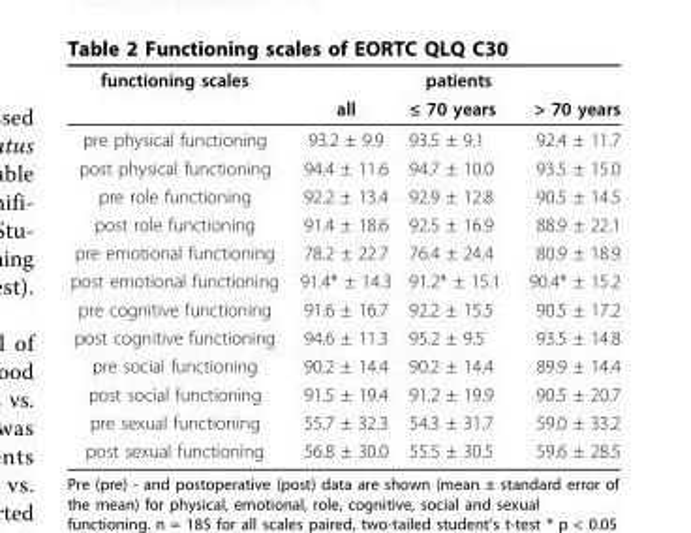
<table><thead><tr><td rowspan="2">functioning scales</td><td colspan="3">patients</td></tr><tr><td>all</td><td>≤ 70 years</td><td>&gt; 70 years</td></tr></thead><tbody><tr><td>pre physical functioning</td><td>93.2 ± 9.9</td><td>93.5 ± 9.1</td><td>92.4 ± 11.7</td></tr><tr><td>post physical functioning</td><td>94.4 ± 11.6</td><td>94.7 ± 10.0</td><td>93.5 ± 15.0</td></tr><tr><td>pre role functioning</td><td>92.2 ± 13.4</td><td>92.9 ± 12.8</td><td>90.5 ± 14.5</td></tr><tr><td>post role functioning</td><td>91.4 ± 18.6</td><td>92.5 ± 16.9</td><td>88.9 ± 22.1</td></tr><tr><td>pre emotional functioning</td><td>78.2 ± 22.7</td><td>76.4 ± 24.4</td><td>80.9 ± 18.9</td></tr><tr><td>post emotional functioning</td><td>91.4* ± 14.3</td><td>91.2* ± 15.1</td><td>90.4* ± 15.2</td></tr><tr><td>pre cognitive functioning</td><td>91.6 ± 16.7</td><td>92.2 ± 15.5</td><td>90.5 ± 17.2</td></tr><tr><td>post cognitive functioning</td><td>94.6 ± 11.3</td><td>95.2 ± 9.5</td><td>93.5 ± 14.8</td></tr><tr><td>pre social functioning</td><td>90.2 ± 14.4</td><td>90.2 ± 14.4</td><td>89.9 ± 14.4</td></tr><tr><td>post social functioning</td><td>91.5 ± 19.4</td><td>91.2 ± 19.9</td><td>90.5 ± 20.7</td></tr><tr><td>pre sexual functioning</td><td>55.7 ± 32.3</td><td>54.3 ± 31.7</td><td>59.0 ± 33.2</td></tr><tr><td>post sexual functioning</td><td>56.8 ± 30.0</td><td>55.5 ± 30.5</td><td>59.6 ± 28.5</td></tr></tbody></table>